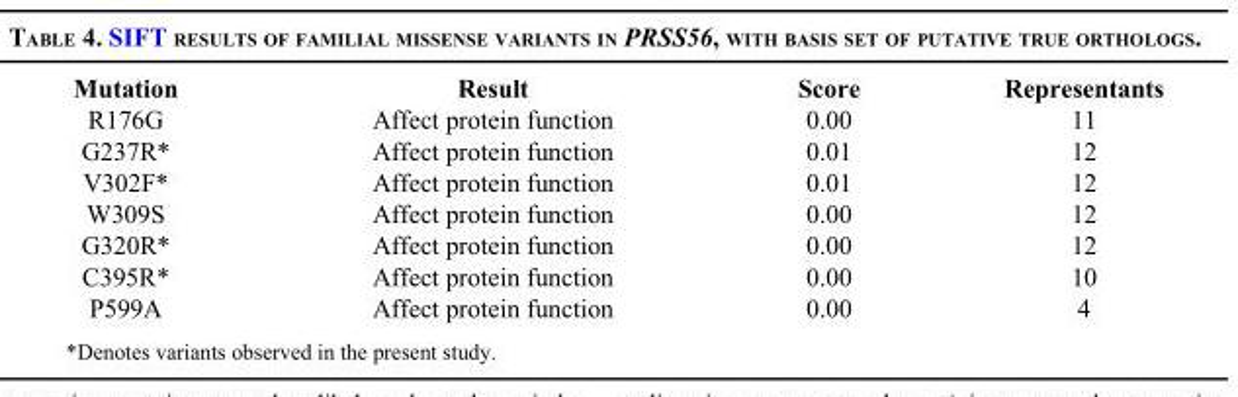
<table><thead><tr><td>Mutation</td><td>Result</td><td>Score</td><td>Representants</td></tr></thead><tbody><tr><td>R176G</td><td>Affect protein function</td><td>0.00</td><td>11</td></tr><tr><td>G237R*</td><td>Affect protein function</td><td>0.01</td><td>12</td></tr><tr><td>V302F*</td><td>Affect protein function</td><td>0.01</td><td>12</td></tr><tr><td>W309S</td><td>Affect protein function</td><td>0.00</td><td>12</td></tr><tr><td>G320R*</td><td>Affect protein function</td><td>0.00</td><td>12</td></tr><tr><td>C395R*</td><td>Affect protein function</td><td>0.00</td><td>10</td></tr><tr><td>P599A</td><td>Affect protein function</td><td>0.00</td><td>4</td></tr></tbody></table>